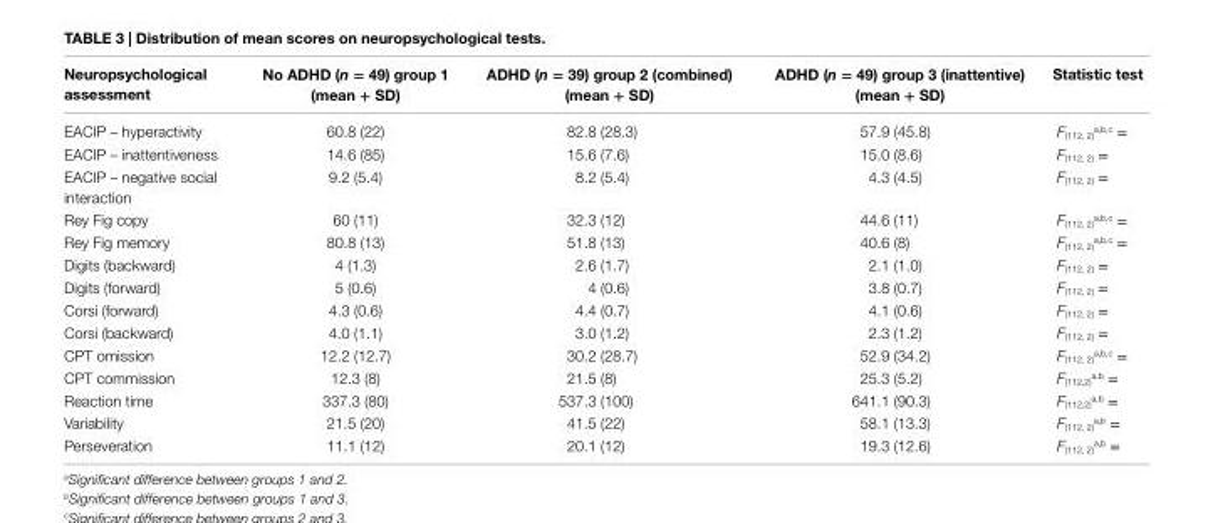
<table><thead><tr><td>neuropsychological assessment</td><td>no aDhD (n = 49) group 1 (mean + sD)</td><td>aDhD (n = 39) group 2 (combined) (mean + sD)</td><td>aDhD (n = 49) group 3 (inattentive) (mean + sD)</td><td>statistic test</td></tr></thead><tbody><tr><td>EACIP – hyperactivity</td><td>60.8 (22)</td><td>82.8 (28.3)</td><td>57.9 (45.8)</td><td>F<sub>(112, 2)</sub><sup>a</sup>,<sup>b</sup>,<sup>c</sup> =</td></tr><tr><td>EACIP – inattentiveness</td><td>14.6 (85)</td><td>15.6 (7.6)</td><td>15.0 (8.6)</td><td>F<sub>(112, 2)</sub> =</td></tr><tr><td>EACIP – negative social interaction</td><td>9.2 (5.4)</td><td>8.2 (5.4)</td><td>4.3 (4.5)</td><td>F<sub>(112, 2)</sub> =</td></tr><tr><td>Rey Fig copy</td><td>60 (11)</td><td>32.3 (12)</td><td>44.6 (11)</td><td>F<sub>(112, 2)</sub><sup>a</sup>,<sup>b</sup>,<sup>c</sup> =</td></tr><tr><td>Rey Fig memory</td><td>80.8 (13)</td><td>51.8 (13)</td><td>40.6 (8)</td><td>F<sub>(112, 2)</sub><sup>a</sup>,<sup>b</sup>,<sup>c</sup> =</td></tr><tr><td>Digits (backward)</td><td>4 (1.3)</td><td>2.6 (1.7)</td><td>2.1 (1.0)</td><td>F<sub>(112, 2)</sub> =</td></tr><tr><td>Digits (forward)</td><td>5 (0.6)</td><td>4 (0.6)</td><td>3.8 (0.7)</td><td>F<sub>(112, 2)</sub> =</td></tr><tr><td>Corsi (forward)</td><td>4.3 (0.6)</td><td>4.4 (0.7)</td><td>4.1 (0.6)</td><td>F<sub>(112, 2)</sub> =</td></tr><tr><td>Corsi (backward)</td><td>4.0 (1.1)</td><td>3.0 (1.2)</td><td>2.3 (1.2)</td><td>F<sub>(112, 2)</sub> =</td></tr><tr><td>CPT omission</td><td>12.2 (12.7)</td><td>30.2 (28.7)</td><td>52.9 (34.2)</td><td>F<sub>(112, 2)</sub><sup>a</sup>,<sup>b</sup>,<sup>c</sup> =</td></tr><tr><td>CPT commission</td><td>12.3 (8)</td><td>21.5 (8)</td><td>25.3 (5.2)</td><td>F<sub>(112,2)</sub><sup>a</sup>,<sup>b</sup> =</td></tr><tr><td>Reaction time</td><td>337.3 (80)</td><td>537.3 (100)</td><td>641.1 (90.3)</td><td>F<sub>(112,2)</sub><sup>a</sup>,<sup>b</sup> =</td></tr><tr><td>Variability</td><td>21.5 (20)</td><td>41.5 (22)</td><td>58.1 (13.3)</td><td>F<sub>(112, 2)</sub><sup>a</sup>,<sup>b</sup> =</td></tr><tr><td>Perseveration</td><td>11.1 (12)</td><td>20.1 (12)</td><td>19.3 (12.6)</td><td>F<sub>(112, 2)</sub><sup>a</sup>,<sup>b</sup> =</td></tr></tbody></table>